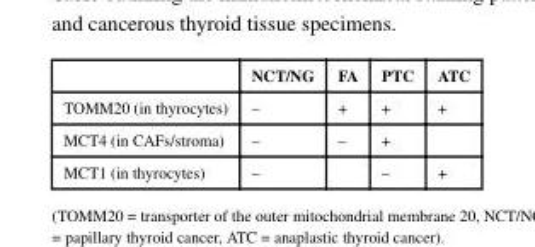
<table><thead><tr><td></td><td>NCT/NG</td><td>FA</td><td>PTC</td><td>ATC</td></tr></thead><tbody><tr><td>TOMM20 (in thyrocytes)</td><td>–</td><td>+</td><td>+</td><td>+</td></tr><tr><td>MCT4 (in CAFs/stroma)</td><td>–</td><td>–</td><td>+</td><td></td></tr><tr><td>MCT1 (in thyrocytes)</td><td>–</td><td></td><td>–</td><td>+</td></tr></tbody></table>